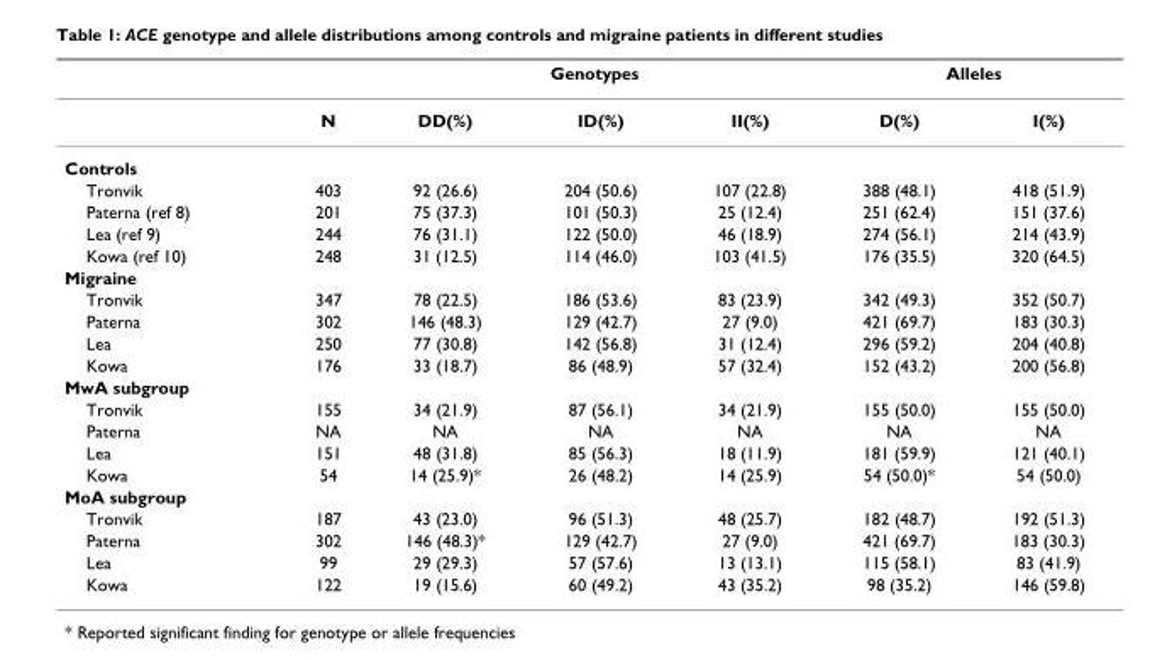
<table><thead><tr><td rowspan="2"></td><td rowspan="2">N</td><td colspan="3">Genotypes</td><td colspan="2">Alleles</td></tr><tr><td>DD(%)</td><td>ID(%)</td><td>II(%)</td><td>D(%)</td><td>I(%)</td></tr></thead><tbody><tr><td colspan="7">Controls</td></tr><tr><td>Tronvik</td><td>403</td><td>92 (26.6)</td><td>204 (50.6)</td><td>107 (22.8)</td><td>388 (48.1)</td><td>418 (51.9)</td></tr><tr><td>Paterna (ref 8)</td><td>201</td><td>75 (37.3)</td><td>101 (50.3)</td><td>25 (12.4)</td><td>251 (62.4)</td><td>151 (37.6)</td></tr><tr><td>Lea (ref 9)</td><td>244</td><td>76 (31.1)</td><td>122 (50.0)</td><td>46 (18.9)</td><td>274 (56.1)</td><td>214 (43.9)</td></tr><tr><td>Kowa (ref 10)</td><td>248</td><td>31 (12.5)</td><td>114 (46.0)</td><td>103 (41.5)</td><td>176 (35.5)</td><td>320 (64.5)</td></tr><tr><td colspan="7">Migraine</td></tr><tr><td>Tronvik</td><td>347</td><td>78 (22.5)</td><td>186 (53.6)</td><td>83 (23.9)</td><td>342 (49.3)</td><td>352 (50.7)</td></tr><tr><td>Paterna</td><td>302</td><td>146 (48.3)</td><td>129 (42.7)</td><td>27 (9.0)</td><td>421 (69.7)</td><td>183 (30.3)</td></tr><tr><td>Lea</td><td>250</td><td>77 (30.8)</td><td>142 (56.8)</td><td>31 (12.4)</td><td>296 (59.2)</td><td>204 (40.8)</td></tr><tr><td>Kowa</td><td>176</td><td>33 (18.7)</td><td>86 (48.9)</td><td>57 (32.4)</td><td>152 (43.2)</td><td>200 (56.8)</td></tr><tr><td colspan="7">MwA subgroup</td></tr><tr><td>Tronvik</td><td>155</td><td>34 (21.9)</td><td>87 (56.1)</td><td>34 (21.9)</td><td>155 (50.0)</td><td>155 (50.0)</td></tr><tr><td>Paterna</td><td>NA</td><td>NA</td><td>NA</td><td>NA</td><td>NA</td><td>NA</td></tr><tr><td>Lea</td><td>151</td><td>48 (31.8)</td><td>85 (56.3)</td><td>18 (11.9)</td><td>181 (59.9)</td><td>121 (40.1)</td></tr><tr><td>Kowa</td><td>54</td><td>14 (25.9)*</td><td>26 (48.2)</td><td>14 (25.9)</td><td>54 (50.0)*</td><td>54 (50.0)</td></tr><tr><td colspan="7">MoA subgroup</td></tr><tr><td>Tronvik</td><td>187</td><td>43 (23.0)</td><td>96 (51.3)</td><td>48 (25.7)</td><td>182 (48.7)</td><td>192 (51.3)</td></tr><tr><td>Paterna</td><td>302</td><td>146 (48.3)*</td><td>129 (42.7)</td><td>27 (9.0)</td><td>421 (69.7)</td><td>183 (30.3)</td></tr><tr><td>Lea</td><td>99</td><td>29 (29.3)</td><td>57 (57.6)</td><td>13 (13.1)</td><td>115 (58.1)</td><td>83 (41.9)</td></tr><tr><td>Kowa</td><td>122</td><td>19 (15.6)</td><td>60 (49.2)</td><td>43 (35.2)</td><td>98 (35.2)</td><td>146 (59.8)</td></tr></tbody></table>